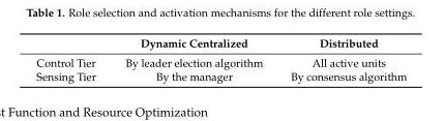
<table><thead><tr><td></td><td>Dynamic Centralized</td><td>Distributed</td></tr></thead><tbody><tr><td>Control Tier</td><td>By leader election algorithm</td><td>All active units</td></tr><tr><td>Sensing Tier</td><td>By the manager</td><td>By consensus algorithm</td></tr></tbody></table>